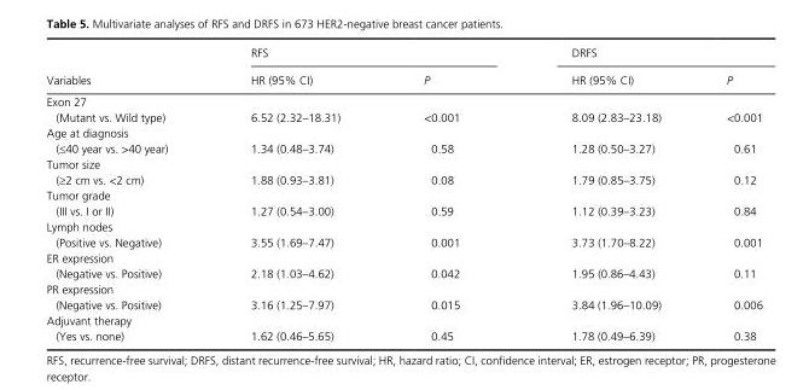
<table><thead><tr><td rowspan="2">Variables</td><td colspan="2">RFS</td><td colspan="2">DRFS</td></tr><tr><td>HR (95% CI)</td><td>P</td><td>HR (95% CI)</td><td>P</td></tr></thead><tbody><tr><td colspan="5">Exon 27</td></tr><tr><td>(Mutant vs. Wild type)</td><td>6.52 (2.32–18.31)</td><td>&lt;0.001</td><td>8.09 (2.83–23.18)</td><td>&lt;0.001</td></tr><tr><td colspan="5">Age at diagnosis</td></tr><tr><td>(≤40 year vs. &gt;40 year)</td><td>1.34 (0.48–3.74)</td><td>0.58</td><td>1.28 (0.50–3.27)</td><td>0.61</td></tr><tr><td colspan="5">Tumor size</td></tr><tr><td>(≥2 cm vs. &lt;2 cm)</td><td>1.88 (0.93–3.81)</td><td>0.08</td><td>1.79 (0.85–3.75)</td><td>0.12</td></tr><tr><td colspan="5">Tumor grade</td></tr><tr><td>(III vs. I or II)</td><td>1.27 (0.54–3.00)</td><td>0.59</td><td>1.12 (0.39–3.23)</td><td>0.84</td></tr><tr><td colspan="5">Lymph nodes</td></tr><tr><td>(Positive vs. Negative)</td><td>3.55 (1.69–7.47)</td><td>0.001</td><td>3.73 (1.70–8.22)</td><td>0.001</td></tr><tr><td colspan="5">ER expression</td></tr><tr><td>(Negative vs. Positive)</td><td>2.18 (1.03–4.62)</td><td>0.042</td><td>1.95 (0.86–4.43)</td><td>0.11</td></tr><tr><td colspan="5">PR expression</td></tr><tr><td>(Negative vs. Positive)</td><td>3.16 (1.25–7.97)</td><td>0.015</td><td>3.84 (1.96–10.09)</td><td>0.006</td></tr><tr><td colspan="5">Adjuvant therapy</td></tr><tr><td>(Yes vs. none)</td><td>1.62 (0.46–5.65)</td><td>0.45</td><td>1.78 (0.49–6.39)</td><td>0.38</td></tr></tbody></table>